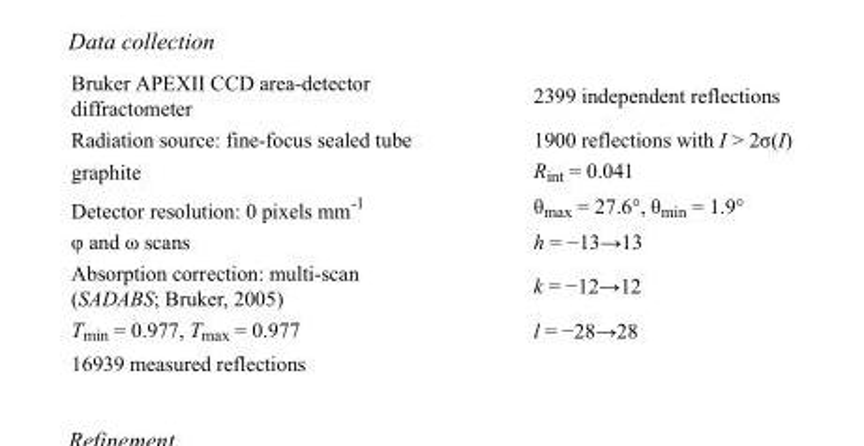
<table><tbody><tr><td>Bruker APEXII CCD area-detector diffractometer</td><td>2399 independent reflections</td></tr><tr><td>Radiation source: fine-focus sealed tube</td><td>1900 reflections with I &gt; 2σ(I)</td></tr><tr><td>graphite</td><td>R<sub>int</sub> = 0.041</td></tr><tr><td>Detector resolution: 0 pixels mm<sup>-1</sup></td><td>θ<sub>max</sub> = 27.6°, θ<sub>min</sub> = 1.9°</td></tr><tr><td>φ and ω scans</td><td>h = −13→13</td></tr><tr><td>Absorption correction: multi-scan (SADABS; Bruker, 2005)</td><td>k = −12→12</td></tr><tr><td>T<sub>min</sub> = 0.977, T<sub>max</sub> = 0.977</td><td>l = −28→28</td></tr><tr><td>16939 measured reflections</td><td></td></tr></tbody></table>